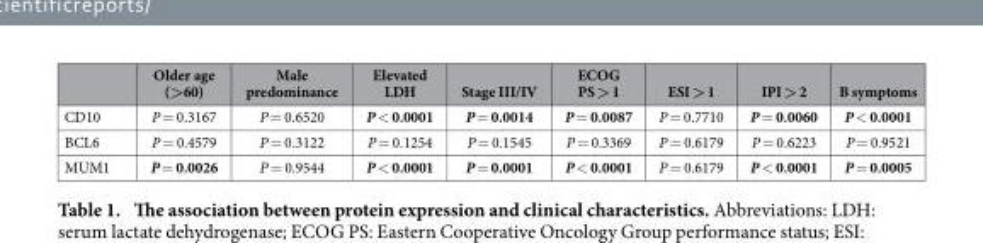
<table><thead><tr><td></td><td>Older age (&gt;60)</td><td>Male predominance</td><td>Elevated LDH</td><td>Stage III/IV</td><td>ECOG PS &gt; 1</td><td>ESI &gt; 1</td><td>IPI &gt; 2</td><td>B symptoms</td></tr></thead><tbody><tr><td>CD10</td><td>P = 0.3167</td><td>P = 0.6520</td><td>P &lt; 0.0001</td><td>P = 0.0014</td><td>P = 0.0087</td><td>P = 0.7710</td><td>P = 0.0060</td><td>P &lt; 0.0001</td></tr><tr><td>BCL6</td><td>P = 0.4579</td><td>P = 0.3122</td><td>P = 0.1254</td><td>P = 0.1545</td><td>P = 0.3369</td><td>P = 0.6179</td><td>P = 0.6223</td><td>P = 0.9521</td></tr><tr><td>MUM1</td><td>P = 0.0026</td><td>P = 0.9544</td><td>P &lt; 0.0001</td><td>P = 0.0001</td><td>P &lt; 0.0001</td><td>P = 0.6179</td><td>P &lt; 0.0001</td><td>P = 0.0005</td></tr></tbody></table>